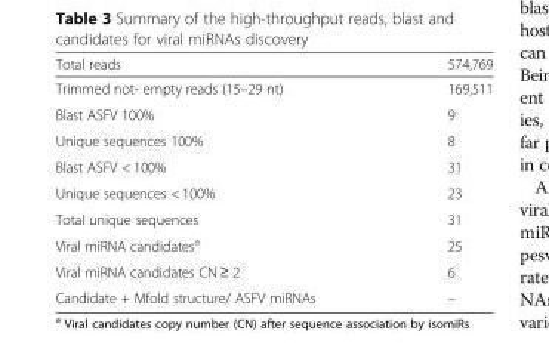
<table><thead><tr><td>Total reads</td><td>574,769</td></tr></thead><tbody><tr><td>Trimmed not- empty reads (15–29 nt)</td><td>169,511</td></tr><tr><td>Blast ASFV 100%</td><td>9</td></tr><tr><td>Unique sequences 100%</td><td>8</td></tr><tr><td>Blast ASFV &lt; 100%</td><td>31</td></tr><tr><td>Unique sequences &lt; 100%</td><td>23</td></tr><tr><td>Total unique sequences</td><td>31</td></tr><tr><td>Viral miRNA candidates<sup>a</sup></td><td>25</td></tr><tr><td>Viral miRNA candidates CN ≥ 2</td><td>6</td></tr><tr><td>Candidate + Mfold structure/ ASFV miRNAs</td><td>–</td></tr></tbody></table>